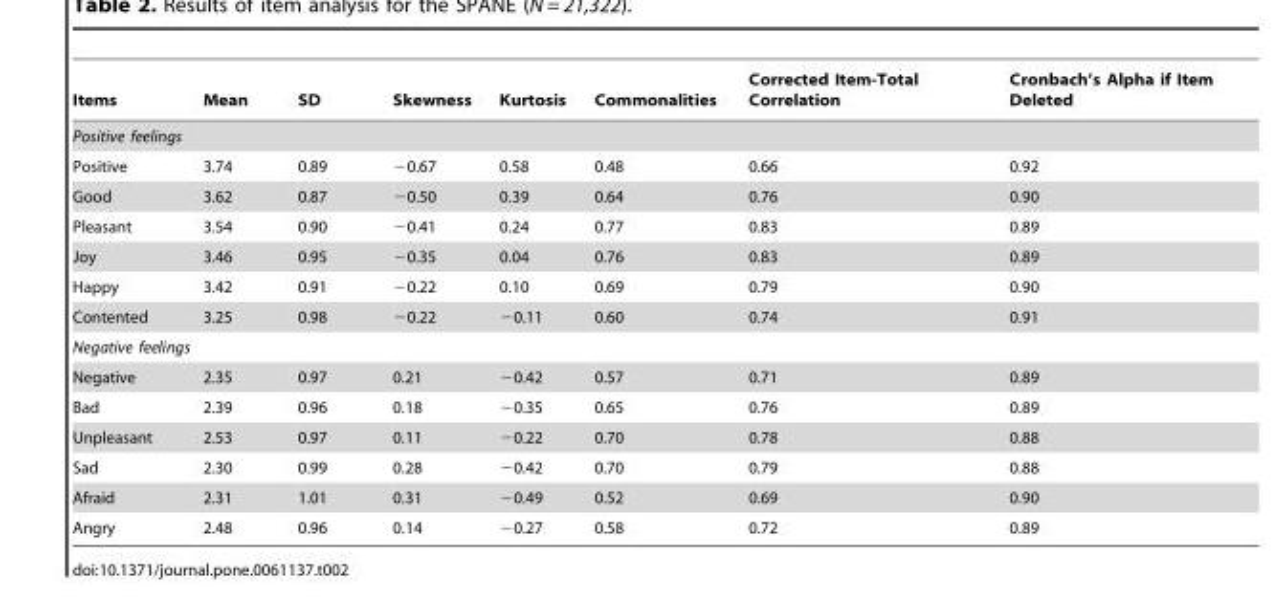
<table><thead><tr><td>Items</td><td>Mean</td><td>SD</td><td>Skewness</td><td>Kurtosis</td><td>Commonalities</td><td>Corrected Item-Total Correlation</td><td>Cronbach’s Alpha if Item Deleted</td></tr></thead><tbody><tr><td colspan="8">Positive feelings</td></tr><tr><td>Positive</td><td>3.74</td><td>0.89</td><td>−0.67</td><td>0.58</td><td>0.48</td><td>0.66</td><td>0.92</td></tr><tr><td>Good</td><td>3.62</td><td>0.87</td><td>−0.50</td><td>0.39</td><td>0.64</td><td>0.76</td><td>0.90</td></tr><tr><td>Pleasant</td><td>3.54</td><td>0.90</td><td>−0.41</td><td>0.24</td><td>0.77</td><td>0.83</td><td>0.89</td></tr><tr><td>Joy</td><td>3.46</td><td>0.95</td><td>−0.35</td><td>0.04</td><td>0.76</td><td>0.83</td><td>0.89</td></tr><tr><td>Happy</td><td>3.42</td><td>0.91</td><td>−0.22</td><td>0.10</td><td>0.69</td><td>0.79</td><td>0.90</td></tr><tr><td>Contented</td><td>3.25</td><td>0.98</td><td>−0.22</td><td>−0.11</td><td>0.60</td><td>0.74</td><td>0.91</td></tr><tr><td colspan="8">Negative feelings</td></tr><tr><td>Negative</td><td>2.35</td><td>0.97</td><td>0.21</td><td>−0.42</td><td>0.57</td><td>0.71</td><td>0.89</td></tr><tr><td>Bad</td><td>2.39</td><td>0.96</td><td>0.18</td><td>−0.35</td><td>0.65</td><td>0.76</td><td>0.89</td></tr><tr><td>Unpleasant</td><td>2.53</td><td>0.97</td><td>0.11</td><td>−0.22</td><td>0.70</td><td>0.78</td><td>0.88</td></tr><tr><td>Sad</td><td>2.30</td><td>0.99</td><td>0.28</td><td>−0.42</td><td>0.70</td><td>0.79</td><td>0.88</td></tr><tr><td>Afraid</td><td>2.31</td><td>1.01</td><td>0.31</td><td>−0.49</td><td>0.52</td><td>0.69</td><td>0.90</td></tr><tr><td>Angry</td><td>2.48</td><td>0.96</td><td>0.14</td><td>−0.27</td><td>0.58</td><td>0.72</td><td>0.89</td></tr></tbody></table>